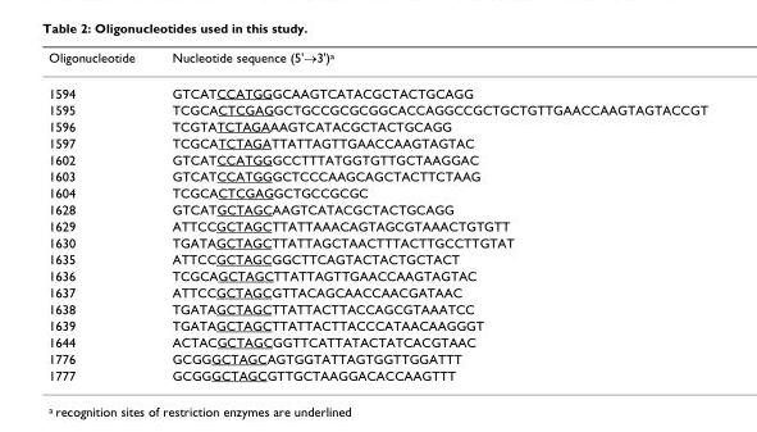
<table><thead><tr><td>Oligonucleotide</td><td>Nucleotide sequence (5&#x27;→3&#x27;)<sup>a</sup></td></tr></thead><tbody><tr><td>1594</td><td>GTCATCCATGGGCAAGTCATACGCTACTGCAGG</td></tr><tr><td>1595</td><td>TCGCACTCGAGGCTGCCGCGCGGCACCAGGCCGCTGCTGTTGAACCAAGTAGTACCGT</td></tr><tr><td>1596</td><td>TCGTATCTAGAAAGTCATACGCTACTGCAGG</td></tr><tr><td>1597</td><td>TCGCATCTAGATTATTAGTTGAACCAAGTAGTAC</td></tr><tr><td>1602</td><td>GTCATCCATGGGCCTTTATGGTGTTGCTAAGGAC</td></tr><tr><td>1603</td><td>GTCATCCATGGGCTCCCAAGCAGCTACTTCTAAG</td></tr><tr><td>1604</td><td>TCGCACTCGAGGCTGCCGCGC</td></tr><tr><td>1628</td><td>GTCATGCTAGCAAGTCATACGCTACTGCAGG</td></tr><tr><td>1629</td><td>ATTCCGCTAGCTTATTAAACAGTAGCGTAAACTGTGTT</td></tr><tr><td>1630</td><td>TGATAGCTAGCTTATTAGCTAACTTTACTTGCCTTGTAT</td></tr><tr><td>1635</td><td>ATTCCGCTAGCGGCTTCAGTACTACTGCTACT</td></tr><tr><td>1636</td><td>TCGCAGCTAGCTTATTAGTTGAACCAAGTAGTAC</td></tr><tr><td>1637</td><td>ATTCCGCTAGCGTTACAGCAACCAACGATAAC</td></tr><tr><td>1638</td><td>TGATAGCTAGCTTATTACTTACCAGCGTAAATCC</td></tr><tr><td>1639</td><td>TGATAGCTAGCTTATTACTTACCCATAACAAGGGT</td></tr><tr><td>1644</td><td>ACTACGCTAGCGGTTCATTATACTATCACGTAAC</td></tr><tr><td>1776</td><td>GCGGGCTAGCAGTGGTATTAGTGGTTGGATTT</td></tr><tr><td>1777</td><td>GCGGGCTAGCGTTGCTAAGGACACCAAGTTT</td></tr></tbody></table>